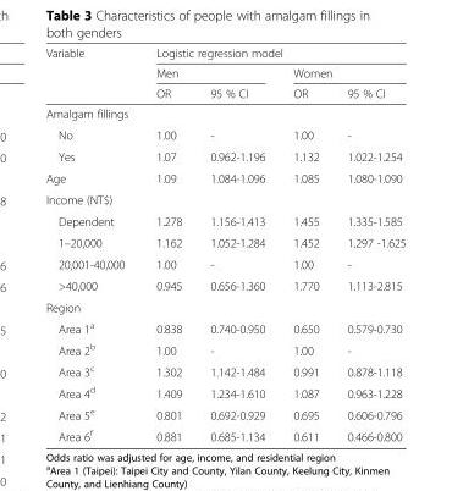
<table><thead><tr><td rowspan="3">Variable</td><td colspan="4">Logistic regression model</td></tr><tr><td colspan="2">Men</td><td colspan="2">Women</td></tr><tr><td>OR</td><td>95 % CI</td><td>OR</td><td>95 % CI</td></tr></thead><tbody><tr><td colspan="5">Amalgam fillings</td></tr><tr><td>No</td><td>1.00</td><td>-</td><td>1.00</td><td>-</td></tr><tr><td>Yes</td><td>1.07</td><td>0.962-1.196</td><td>1.132</td><td>1.022-1.254</td></tr><tr><td>Age</td><td>1.09</td><td>1.084-1.096</td><td>1.085</td><td>1.080-1.090</td></tr><tr><td colspan="5">Income (NT$)</td></tr><tr><td>Dependent</td><td>1.278</td><td>1.156-1.413</td><td>1.455</td><td>1.335-1.585</td></tr><tr><td>1–20,000</td><td>1.162</td><td>1.052-1.284</td><td>1.452</td><td>1.297 -1.625</td></tr><tr><td>20,001-40,000</td><td>1.00</td><td>-</td><td>1.00</td><td>-</td></tr><tr><td>&gt;40,000</td><td>0.945</td><td>0.656-1.360</td><td>1.770</td><td>1.113-2.815</td></tr><tr><td colspan="5">Region</td></tr><tr><td>Area 1<sup>a</sup></td><td>0.838</td><td>0.740-0.950</td><td>0.650</td><td>0.579-0.730</td></tr><tr><td>Area 2<sup>b</sup></td><td>1.00</td><td>-</td><td>1.00</td><td>-</td></tr><tr><td>Area 3<sup>c</sup></td><td>1.302</td><td>1.142-1.484</td><td>0.991</td><td>0.878-1.118</td></tr><tr><td>Area 4<sup>d</sup></td><td>1.409</td><td>1.234-1.610</td><td>1.087</td><td>0.963-1.228</td></tr><tr><td>Area 5<sup>e</sup></td><td>0.801</td><td>0.692-0.929</td><td>0.695</td><td>0.606-0.796</td></tr><tr><td>Area 6<sup>f</sup></td><td>0.881</td><td>0.685-1.134</td><td>0.611</td><td>0.466-0.800</td></tr></tbody></table>